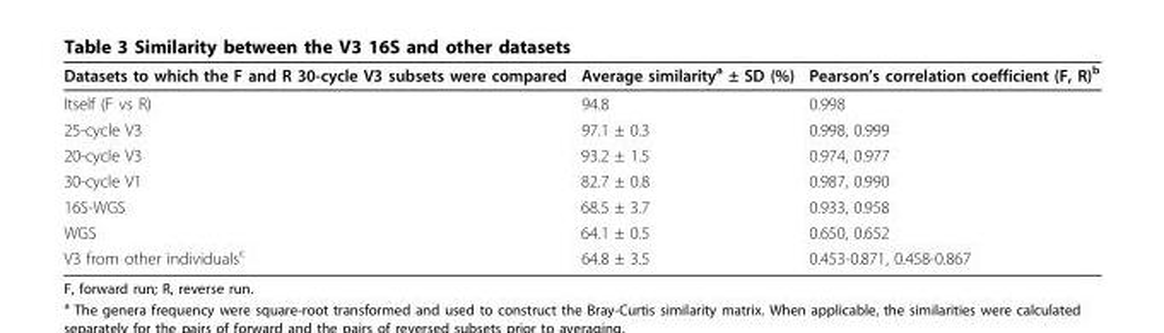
<table><thead><tr><td>Datasets to which the F and R 30-cycle V3 subsets were compared</td><td>Average similarity<sup>a</sup> ± SD (%)</td><td>Pearson’s correlation coefficient (F, R)<sup>b</sup></td></tr></thead><tbody><tr><td>Itself (F vs R)</td><td>94.8</td><td>0.998</td></tr><tr><td>25-cycle V3</td><td>97.1 ± 0.3</td><td>0.998, 0.999</td></tr><tr><td>20-cycle V3</td><td>93.2 ± 1.5</td><td>0.974, 0.977</td></tr><tr><td>30-cycle V1</td><td>82.7 ± 0.8</td><td>0.987, 0.990</td></tr><tr><td>16S-WGS</td><td>68.5 ± 3.7</td><td>0.933, 0.958</td></tr><tr><td>WGS</td><td>64.1 ± 0.5</td><td>0.650, 0.652</td></tr><tr><td>V3 from other individuals<sup>c</sup></td><td>64.8 ± 3.5</td><td>0.453-0.871, 0.458-0.867</td></tr></tbody></table>